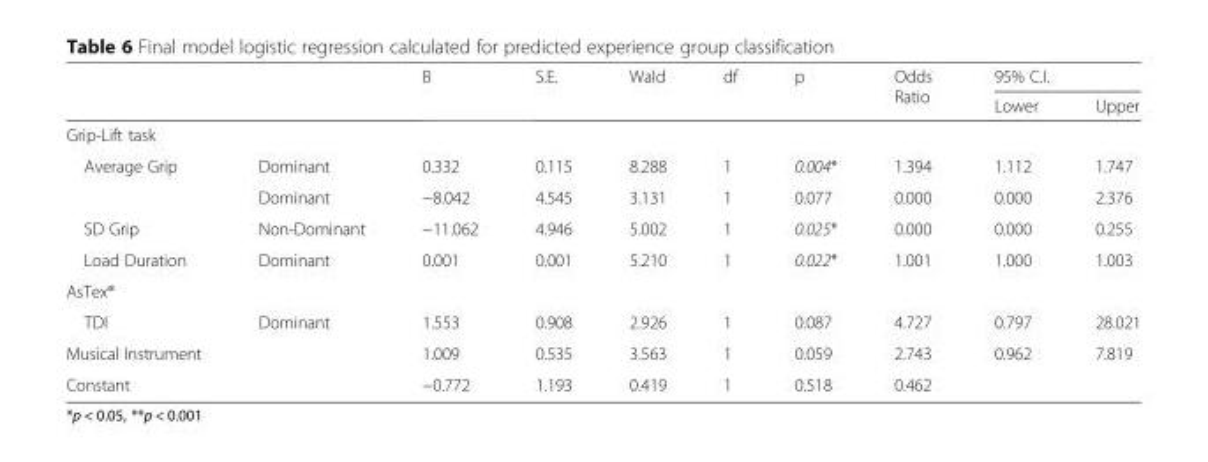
<table><thead><tr><td rowspan="2"></td><td rowspan="2"></td><td rowspan="2">B</td><td rowspan="2">S.E.</td><td rowspan="2">Wald</td><td rowspan="2">df</td><td rowspan="2">p</td><td rowspan="2">Odds Ratio</td><td colspan="2">95% C.I.</td></tr><tr><td>Lower</td><td>Upper</td></tr></thead><tbody><tr><td colspan="10">Grip-Lift task</td></tr><tr><td rowspan="2">Average Grip</td><td>Dominant</td><td>0.332</td><td>0.115</td><td>8.288</td><td>1</td><td>0.004*</td><td>1.394</td><td>1.112</td><td>1.747</td></tr><tr><td>Dominant</td><td>−8.042</td><td>4.545</td><td>3.131</td><td>1</td><td>0.077</td><td>0.000</td><td>0.000</td><td>2.376</td></tr><tr><td>SD Grip</td><td>Non-Dominant</td><td>−11.062</td><td>4.946</td><td>5.002</td><td>1</td><td>0.025*</td><td>0.000</td><td>0.000</td><td>0.255</td></tr><tr><td>Load Duration</td><td>Dominant</td><td>0.001</td><td>0.001</td><td>5.210</td><td>1</td><td>0.022*</td><td>1.001</td><td>1.000</td><td>1.003</td></tr><tr><td colspan="10">AsTex®</td></tr><tr><td>TDI</td><td>Dominant</td><td>1.553</td><td>0.908</td><td>2.926</td><td>1</td><td>0.087</td><td>4.727</td><td>0.797</td><td>28.021</td></tr><tr><td>Musical Instrument</td><td></td><td>1.009</td><td>0.535</td><td>3.563</td><td>1</td><td>0.059</td><td>2.743</td><td>0.962</td><td>7.819</td></tr><tr><td>Constant</td><td></td><td>−0.772</td><td>1.193</td><td>0.419</td><td>1</td><td>0.518</td><td>0.462</td><td></td><td></td></tr></tbody></table>